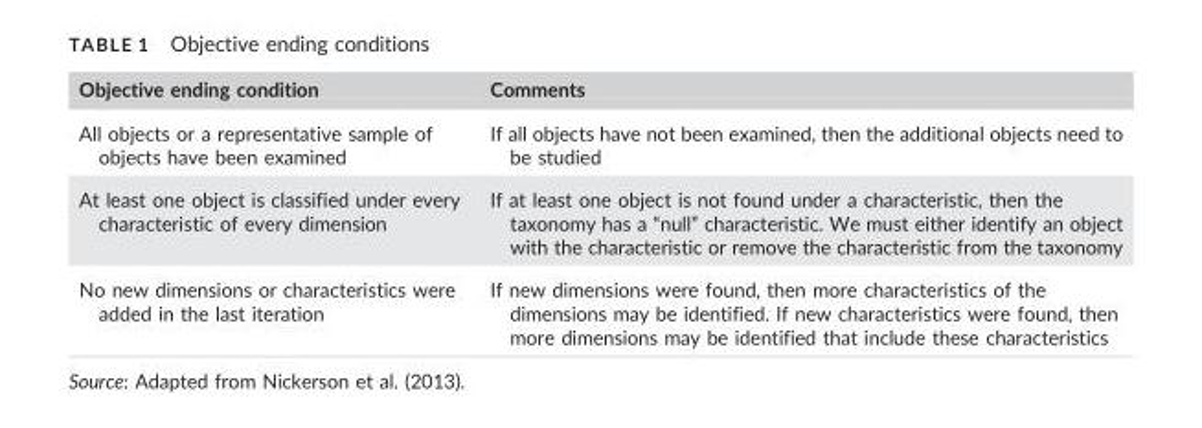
<table><thead><tr><td>Objective ending condition</td><td>Comments</td></tr></thead><tbody><tr><td>All objects or a representative sample of objects have been examined</td><td>If all objects have not been examined, then the additional objects need to be studied</td></tr><tr><td>At least one object is classified under every characteristic of every dimension</td><td>If at least one object is not found under a characteristic, then the taxonomy has a “null” characteristic. We must either identify an object with the characteristic or remove the characteristic from the taxonomy</td></tr><tr><td>No new dimensions or characteristics were added in the last iteration</td><td>If new dimensions were found, then more characteristics of the dimensions may be identified. If new characteristics were found, then more dimensions may be identified that include these characteristics</td></tr></tbody></table>